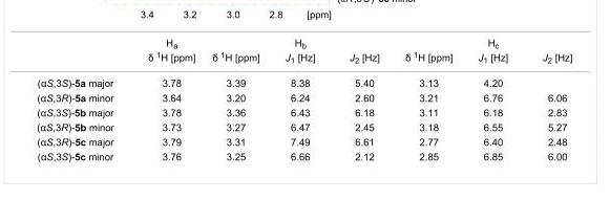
<table><thead><tr><td rowspan="2"></td><td rowspan="2">H<sub>a</sub> δ <sup>1</sup>H [ppm]</td><td colspan="3">H<sub>b</sub></td><td colspan="3">H<sub>c</sub></td></tr><tr><td>δ <sup>1</sup>H [ppm]</td><td>J<sub>1</sub> [Hz]</td><td>J<sub>2</sub> [Hz]</td><td>δ <sup>1</sup>H [ppm]</td><td>J<sub>1</sub> [Hz]</td><td>J<sub>2</sub> [Hz]</td></tr></thead><tbody><tr><td>(αS,3S)-5a major</td><td>3.78</td><td>3.39</td><td>8.38</td><td>5.40</td><td>3.13</td><td>4.20</td><td></td></tr><tr><td>(αS,3R)-5a minor</td><td>3.64</td><td>3.20</td><td>6.24</td><td>2.60</td><td>3.21</td><td>6.76</td><td>6.06</td></tr><tr><td>(αS,3S)-5b major</td><td>3.78</td><td>3.36</td><td>6.43</td><td>6.18</td><td>3.11</td><td>6.18</td><td>2.83</td></tr><tr><td>(αS,3R)-5b minor</td><td>3.73</td><td>3.27</td><td>6.47</td><td>2.45</td><td>3.18</td><td>6.55</td><td>5.27</td></tr><tr><td>(αS,3R)-5c major</td><td>3.79</td><td>3.31</td><td>7.49</td><td>6.61</td><td>2.77</td><td>6.40</td><td>2.48</td></tr><tr><td>(αS,3S)-5c minor</td><td>3.76</td><td>3.25</td><td>6.66</td><td>2.12</td><td>2.85</td><td>6.85</td><td>6.00</td></tr></tbody></table>